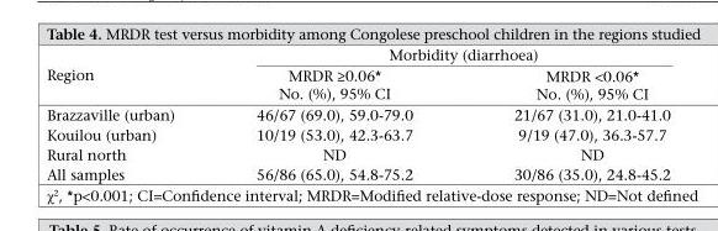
<table><thead><tr><td rowspan="2">Region</td><td colspan="2">Morbidity (diarrhoea)</td></tr><tr><td>MRDR ≥0.06* No. (%), 95% CI</td><td>MRDR &lt;0.06* No. (%), 95% CI</td></tr></thead><tbody><tr><td>Brazzaville (urban)</td><td>46/67 (69.0), 59.0-79.0</td><td>21/67 (31.0), 21.0-41.0</td></tr><tr><td>Kouilou (urban)</td><td>10/19 (53.0), 42.3-63.7</td><td>9/19 (47.0), 36.3-57.7</td></tr><tr><td>Rural north</td><td>ND</td><td>ND</td></tr><tr><td>All samples</td><td>56/86 (65.0), 54.8-75.2</td><td>30/86 (35.0), 24.8-45.2</td></tr></tbody></table>